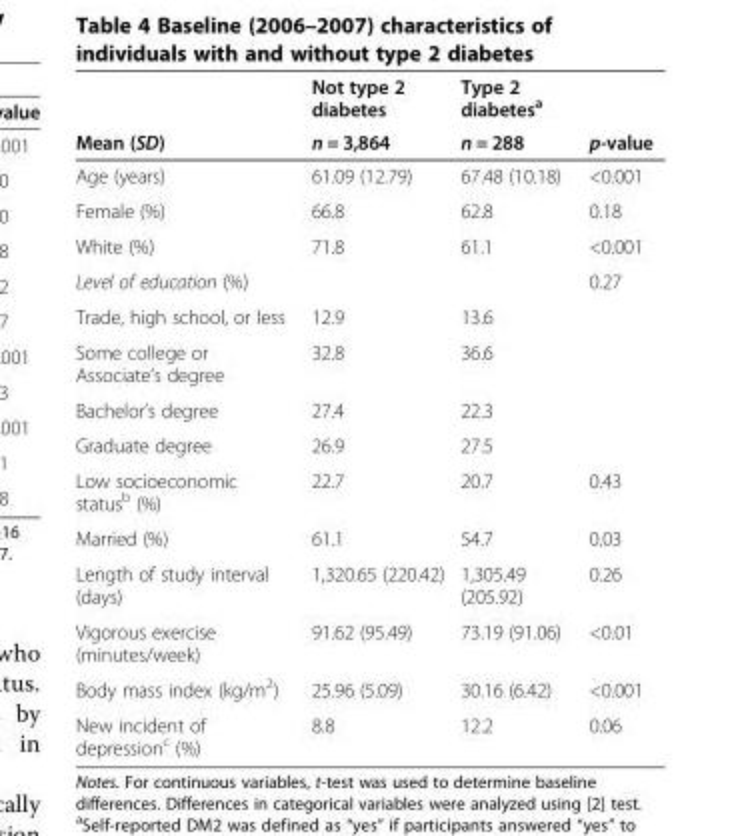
<table><thead><tr><td rowspan="2">Mean (SD)</td><td rowspan="2">Not type 2 diabetes n = 3,864</td><td rowspan="2">Type 2 diabetes<sup>a</sup> n = 288</td><td rowspan="2">p-value</td></tr><tr></tr></thead><tbody><tr><td>Age (years)</td><td>61.09 (12.79)</td><td>67.48 (10.18)</td><td>&lt;0.001</td></tr><tr><td>Female (%)</td><td>66.8</td><td>62.8</td><td>0.18</td></tr><tr><td>White (%)</td><td>71.8</td><td>61.1</td><td>&lt;0.001</td></tr><tr><td>Level of education (%)</td><td></td><td></td><td>0.27</td></tr><tr><td>Trade, high school, or less</td><td>12.9</td><td>13.6</td><td></td></tr><tr><td>Some college or Associate’s degree</td><td>32.8</td><td>36.6</td><td></td></tr><tr><td>Bachelor’s degree</td><td>27.4</td><td>22.3</td><td></td></tr><tr><td>Graduate degree</td><td>26.9</td><td>27.5</td><td></td></tr><tr><td>Low socioeconomic status<sup>b</sup> (%)</td><td>22.7</td><td>20.7</td><td>0.43</td></tr><tr><td>Married (%)</td><td>61.1</td><td>54.7</td><td>0.03</td></tr><tr><td>Length of study interval (days)</td><td>1,320.65 (220.42)</td><td>1,305.49 (205.92)</td><td>0.26</td></tr><tr><td>Vigorous exercise (minutes/week)</td><td>91.62 (95.49)</td><td>73.19 (91.06)</td><td>&lt;0.01</td></tr><tr><td>Body mass index (kg/m<sup>2</sup>)</td><td>25.96 (5.09)</td><td>30.16 (6.42)</td><td>&lt;0.001</td></tr><tr><td>New incident of depression<sup>c</sup> (%)</td><td>8.8</td><td>12.2</td><td>0.06</td></tr></tbody></table>